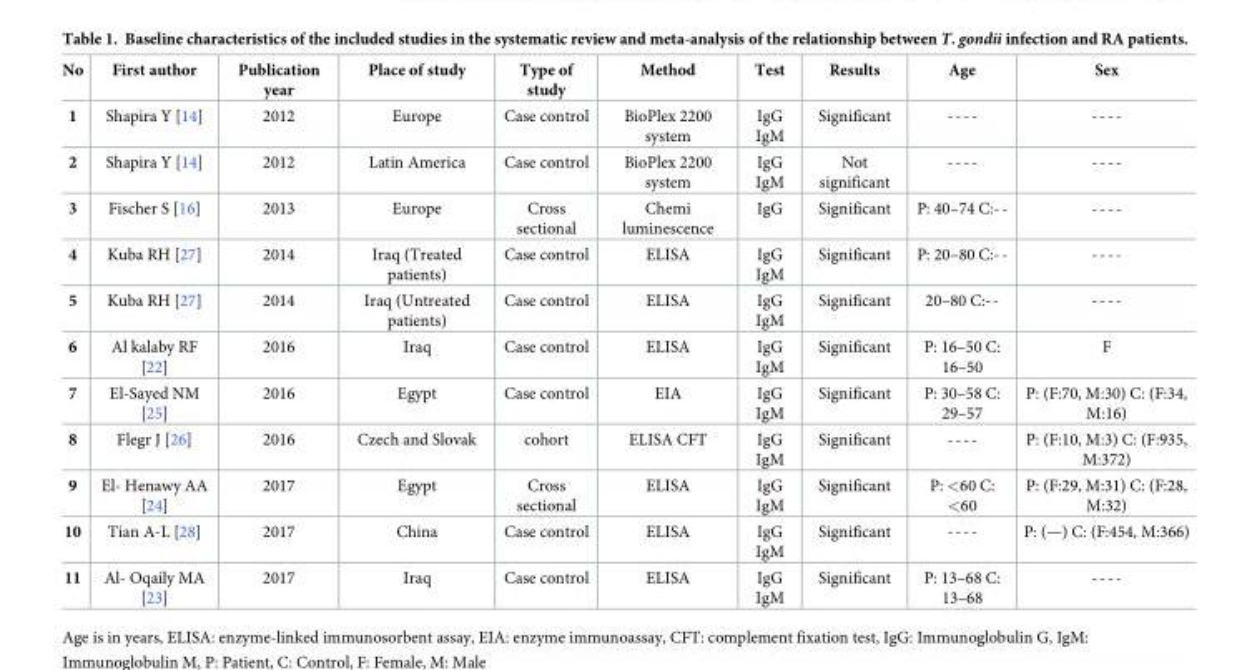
<table><thead><tr><td>No</td><td>First author</td><td>Publication year</td><td>Place of study</td><td>Type of study</td><td>Method</td><td>Test</td><td>Results</td><td>Age</td><td>Sex</td></tr></thead><tbody><tr><td>1</td><td>Shapira Y [14]</td><td>2012</td><td>Europe</td><td>Case control</td><td>BioPlex 2200 system</td><td>IgG IgM</td><td>Significant</td><td>----</td><td>----</td></tr><tr><td>2</td><td>Shapira Y [14]</td><td>2012</td><td>Latin America</td><td>Case control</td><td>BioPlex 2200 system</td><td>IgG IgM</td><td>Not significant</td><td>----</td><td>----</td></tr><tr><td>3</td><td>Fischer S [16]</td><td>2013</td><td>Europe</td><td>Cross sectional</td><td>Chemi luminescence</td><td>IgG</td><td>Significant</td><td>P: 40–74 C:--</td><td>----</td></tr><tr><td>4</td><td>Kuba RH [27]</td><td>2014</td><td>Iraq (Treated patients)</td><td>Case control</td><td>ELISA</td><td>IgG IgM</td><td>Significant</td><td>P: 20–80 C:--</td><td>----</td></tr><tr><td>5</td><td>Kuba RH [27]</td><td>2014</td><td>Iraq (Untreated patients)</td><td>Case control</td><td>ELISA</td><td>IgG IgM</td><td>Significant</td><td>20–80 C:--</td><td>----</td></tr><tr><td>6</td><td>Al kalaby RF [22]</td><td>2016</td><td>Iraq</td><td>Case control</td><td>ELISA</td><td>IgG IgM</td><td>Significant</td><td>P: 16–50 C: 16–50</td><td>F</td></tr><tr><td>7</td><td>El-Sayed NM [25]</td><td>2016</td><td>Egypt</td><td>Case control</td><td>EIA</td><td>IgG IgM</td><td>Significant</td><td>P: 30–58 C: 29–57</td><td>P: (F:70, M:30) C: (F:34, M:16)</td></tr><tr><td>8</td><td>Flegr J [26]</td><td>2016</td><td>Czech and Slovak</td><td>cohort</td><td>ELISA CFT</td><td>IgG IgM</td><td>Significant</td><td>----</td><td>P: (F:10, M:3) C: (F:935, M:372)</td></tr><tr><td>9</td><td>El- Henawy AA [24]</td><td>2017</td><td>Egypt</td><td>Cross sectional</td><td>ELISA</td><td>IgG IgM</td><td>Significant</td><td>P: &lt;60 C: &lt;60</td><td>P: (F:29, M:31) C: (F:28, M:32)</td></tr><tr><td>10</td><td>Tian A-L [28]</td><td>2017</td><td>China</td><td>Case control</td><td>ELISA</td><td>IgG IgM</td><td>Significant</td><td>----</td><td>P: (—) C: (F:454, M:366)</td></tr><tr><td>11</td><td>Al- Oqaily MA [23]</td><td>2017</td><td>Iraq</td><td>Case control</td><td>ELISA</td><td>IgG IgM</td><td>Significant</td><td>P: 13–68 C: 13–68</td><td>----</td></tr></tbody></table>